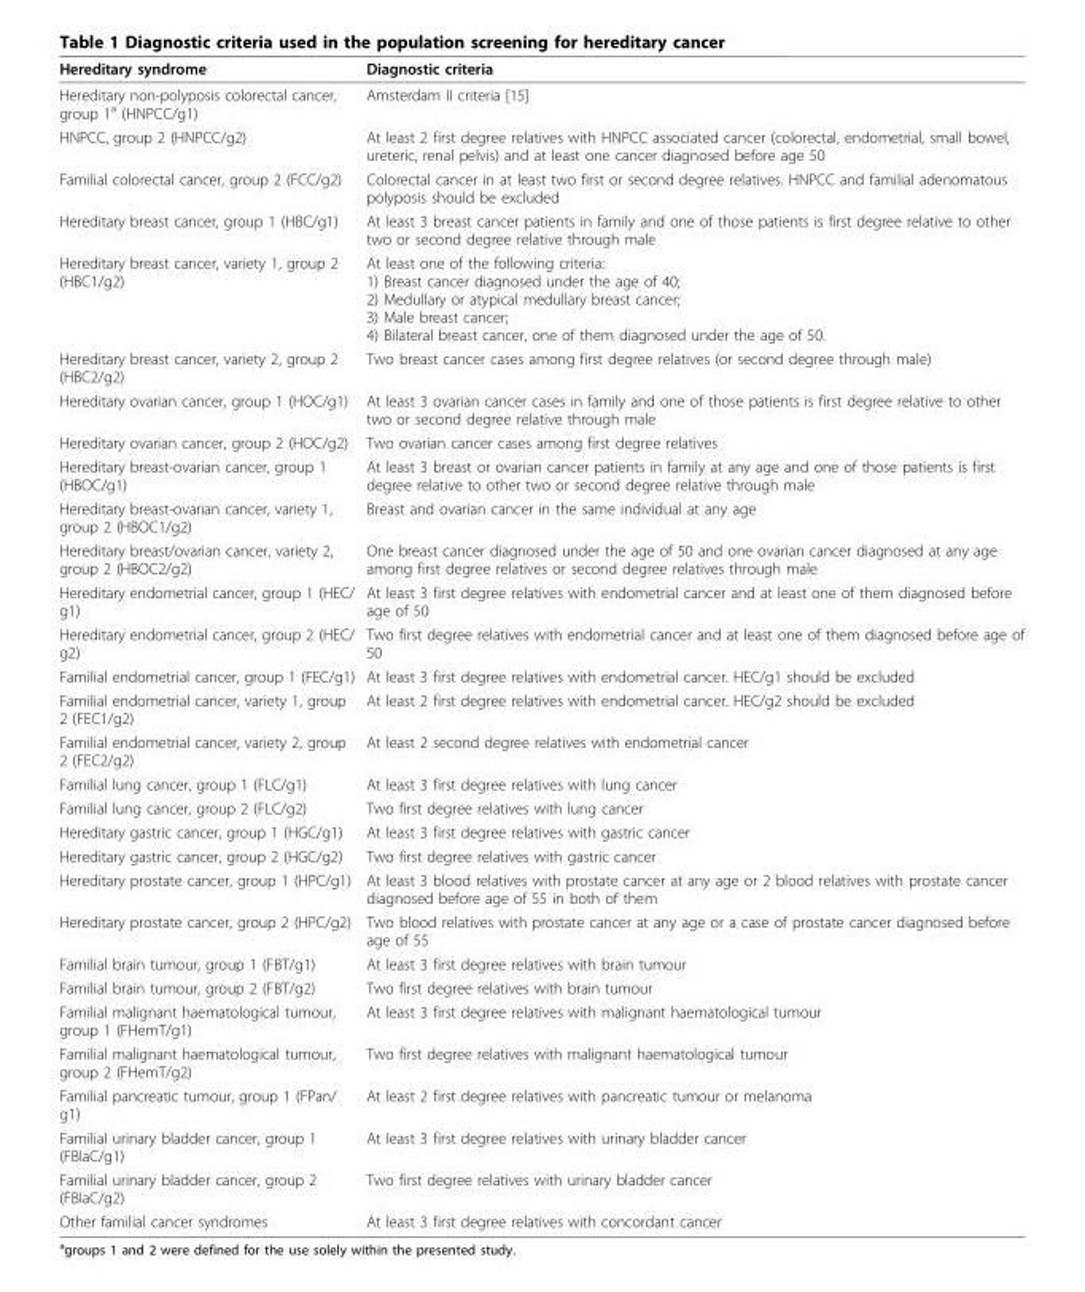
<table><thead><tr><td>Hereditary syndrome</td><td>Diagnostic criteria</td></tr></thead><tbody><tr><td>Hereditary non-polyposis colorectal cancer, group 1<sup>a</sup> (HNPCC/g1)</td><td>Amsterdam II criteria [15]</td></tr><tr><td>HNPCC, group 2 (HNPCC/g2)</td><td>At least 2 first degree relatives with HNPCC associated cancer (colorectal, endometrial, small bowel, ureteric, renal pelvis) and at least one cancer diagnosed before age 50</td></tr><tr><td>Familial colorectal cancer, group 2 (FCC/g2)</td><td>Colorectal cancer in at least two first or second degree relatives. HNPCC and familial adenomatous polyposis should be excluded</td></tr><tr><td>Hereditary breast cancer, group 1 (HBC/g1)</td><td>At least 3 breast cancer patients in family and one of those patients is first degree relative to other two or second degree relative through male</td></tr><tr><td>Hereditary breast cancer, variety 1, group 2 (HBC1/g2)</td><td>At least one of the following criteria: 1) Breast cancer diagnosed under the age of 40; 2) Medullary or atypical medullary breast cancer; 3) Male breast cancer; 4) Bilateral breast cancer, one of them diagnosed under the age of 50.</td></tr><tr><td>Hereditary breast cancer, variety 2, group 2 (HBC2/g2)</td><td>Two breast cancer cases among first degree relatives (or second degree through male)</td></tr><tr><td>Hereditary ovarian cancer, group 1 (HOC/g1)</td><td>At least 3 ovarian cancer cases in family and one of those patients is first degree relative to other two or second degree relative through male</td></tr><tr><td>Hereditary ovarian cancer, group 2 (HOC/g2)</td><td>Two ovarian cancer cases among first degree relatives</td></tr><tr><td>Hereditary breast-ovarian cancer, group 1 (HBOC/g1)</td><td>At least 3 breast or ovarian cancer patients in family at any age and one of those patients is first degree relative to other two or second degree relative through male</td></tr><tr><td>Hereditary breast-ovarian cancer, variety 1, group 2 (HBOC1/g2)</td><td>Breast and ovarian cancer in the same individual at any age</td></tr><tr><td>Hereditary breast/ovarian cancer, variety 2, group 2 (HBOC2/g2)</td><td>One breast cancer diagnosed under the age of 50 and one ovarian cancer diagnosed at any age among first degree relatives or second degree relatives through male</td></tr><tr><td>Hereditary endometrial cancer, group 1 (HEC/ g1)</td><td>At least 3 first degree relatives with endometrial cancer and at least one of them diagnosed before age of 50</td></tr><tr><td>Hereditary endometrial cancer, group 2 (HEC/ g2)</td><td>Two first degree relatives with endometrial cancer and at least one of them diagnosed before age of 50</td></tr><tr><td>Familial endometrial cancer, group 1 (FEC/g1)</td><td>At least 3 first degree relatives with endometrial cancer. HEC/g1 should be excluded</td></tr><tr><td>Familial endometrial cancer, variety 1, group 2 (FEC1/g2)</td><td>At least 2 first degree relatives with endometrial cancer. HEC/g2 should be excluded</td></tr><tr><td>Familial endometrial cancer, variety 2, group 2 (FEC2/g2)</td><td>At least 2 second degree relatives with endometrial cancer</td></tr><tr><td>Familial lung cancer, group 1 (FLC/g1)</td><td>At least 3 first degree relatives with lung cancer</td></tr><tr><td>Familial lung cancer, group 2 (FLC/g2)</td><td>Two first degree relatives with lung cancer</td></tr><tr><td>Hereditary gastric cancer, group 1 (HGC/g1)</td><td>At least 3 first degree relatives with gastric cancer</td></tr><tr><td>Hereditary gastric cancer, group 2 (HGC/g2)</td><td>Two first degree relatives with gastric cancer</td></tr><tr><td>Hereditary prostate cancer, group 1 (HPC/g1)</td><td>At least 3 blood relatives with prostate cancer at any age or 2 blood relatives with prostate cancer diagnosed before age of 55 in both of them</td></tr><tr><td>Hereditary prostate cancer, group 2 (HPC/g2)</td><td>Two blood relatives with prostate cancer at any age or a case of prostate cancer diagnosed before age of 55</td></tr><tr><td>Familial brain tumour, group 1 (FBT/g1)</td><td>At least 3 first degree relatives with brain tumour</td></tr><tr><td>Familial brain tumour, group 2 (FBT/g2)</td><td>Two first degree relatives with brain tumour</td></tr><tr><td>Familial malignant haematological tumour, group 1 (FHemT/g1)</td><td>At least 3 first degree relatives with malignant haematological tumour</td></tr><tr><td>Familial malignant haematological tumour, group 2 (FHemT/g2)</td><td>Two first degree relatives with malignant haematological tumour</td></tr><tr><td>Familial pancreatic tumour, group 1 (FPan/ g1)</td><td>At least 2 first degree relatives with pancreatic tumour or melanoma</td></tr><tr><td>Familial urinary bladder cancer, group 1 (FBlaC/g1)</td><td>At least 3 first degree relatives with urinary bladder cancer</td></tr><tr><td>Familial urinary bladder cancer, group 2 (FBlaC/g2)</td><td>Two first degree relatives with urinary bladder cancer</td></tr><tr><td>Other familial cancer syndromes</td><td>At least 3 first degree relatives with concordant cancer</td></tr></tbody></table>